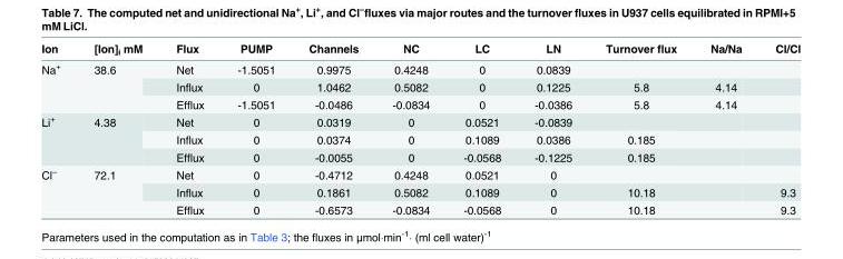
<table><thead><tr><td>Ion</td><td>[Ion]<sub>i</sub> mM</td><td>Flux</td><td>PUMP</td><td>Channels</td><td>NC</td><td>LC</td><td>LN</td><td>Turnover flux</td><td>Na/Na</td><td>Cl/Cl</td></tr></thead><tbody><tr><td rowspan="3">Na<sup>+</sup></td><td rowspan="3">38.6</td><td>Net</td><td>-1.5051</td><td>0.9975</td><td>0.4248</td><td>0</td><td>0.0839</td><td></td><td></td><td></td></tr><tr><td>Influx</td><td>0</td><td>1.0462</td><td>0.5082</td><td>0</td><td>0.1225</td><td>5.8</td><td>4.14</td><td></td></tr><tr><td>Efflux</td><td>-1.5051</td><td>-0.0486</td><td>-0.0834</td><td>0</td><td>-0.0386</td><td>5.8</td><td>4.14</td><td></td></tr><tr><td rowspan="3">Li<sup>+</sup></td><td rowspan="3">4.38</td><td>Net</td><td>0</td><td>0.0319</td><td>0</td><td>0.0521</td><td>-0.0839</td><td></td><td></td><td></td></tr><tr><td>Influx</td><td>0</td><td>0.0374</td><td>0</td><td>0.1089</td><td>0.0386</td><td>0.185</td><td></td><td></td></tr><tr><td>Efflux</td><td>0</td><td>-0.0055</td><td>0</td><td>-0.0568</td><td>-0.1225</td><td>0.185</td><td></td><td></td></tr><tr><td rowspan="3">Cl<sup>–</sup></td><td rowspan="3">72.1</td><td>Net</td><td>0</td><td>-0.4712</td><td>0.4248</td><td>0.0521</td><td>0</td><td></td><td></td><td></td></tr><tr><td>Influx</td><td>0</td><td>0.1861</td><td>0.5082</td><td>0.1089</td><td>0</td><td>10.18</td><td></td><td>9.3</td></tr><tr><td>Efflux</td><td>0</td><td>-0.6573</td><td>-0.0834</td><td>-0.0568</td><td>0</td><td>10.18</td><td></td><td>9.3</td></tr></tbody></table>